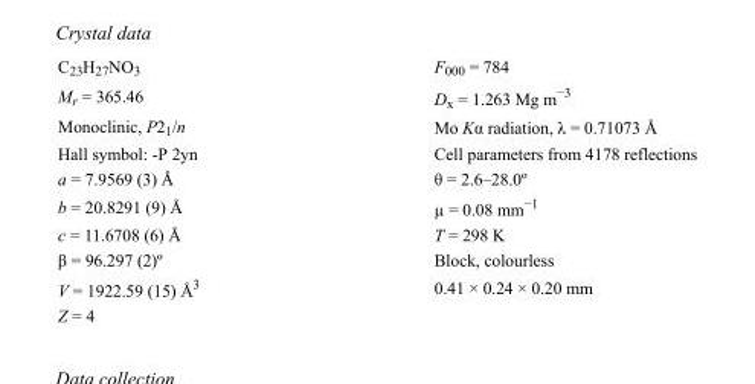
<table><tbody><tr><td>C<sub>23</sub>H<sub>27</sub>NO<sub>3</sub></td><td>F000 = 784</td></tr><tr><td>M<sub>r</sub> = 365.46</td><td>D<sub>x</sub> = 1.263 Mg m<sup>−3</sup></td></tr><tr><td>Monoclinic, P2<sub>1</sub>/n</td><td>Mo Kα radiation, λ = 0.71073 Å</td></tr><tr><td>Hall symbol: -P 2yn</td><td>Cell parameters from 4178 reflections</td></tr><tr><td>a = 7.9569 (3) Å</td><td>θ = 2.6–28.0º</td></tr><tr><td>b = 20.8291 (9) Å</td><td>µ = 0.08 mm<sup>−1</sup></td></tr><tr><td>c = 11.6708 (6) Å</td><td>T = 298 K</td></tr><tr><td>β = 96.297 (2)º</td><td>Block, colourless</td></tr><tr><td>V = 1922.59 (15) Å<sup>3</sup></td><td>0.41 × 0.24 × 0.20 mm</td></tr><tr><td>Z = 4</td><td></td></tr></tbody></table>